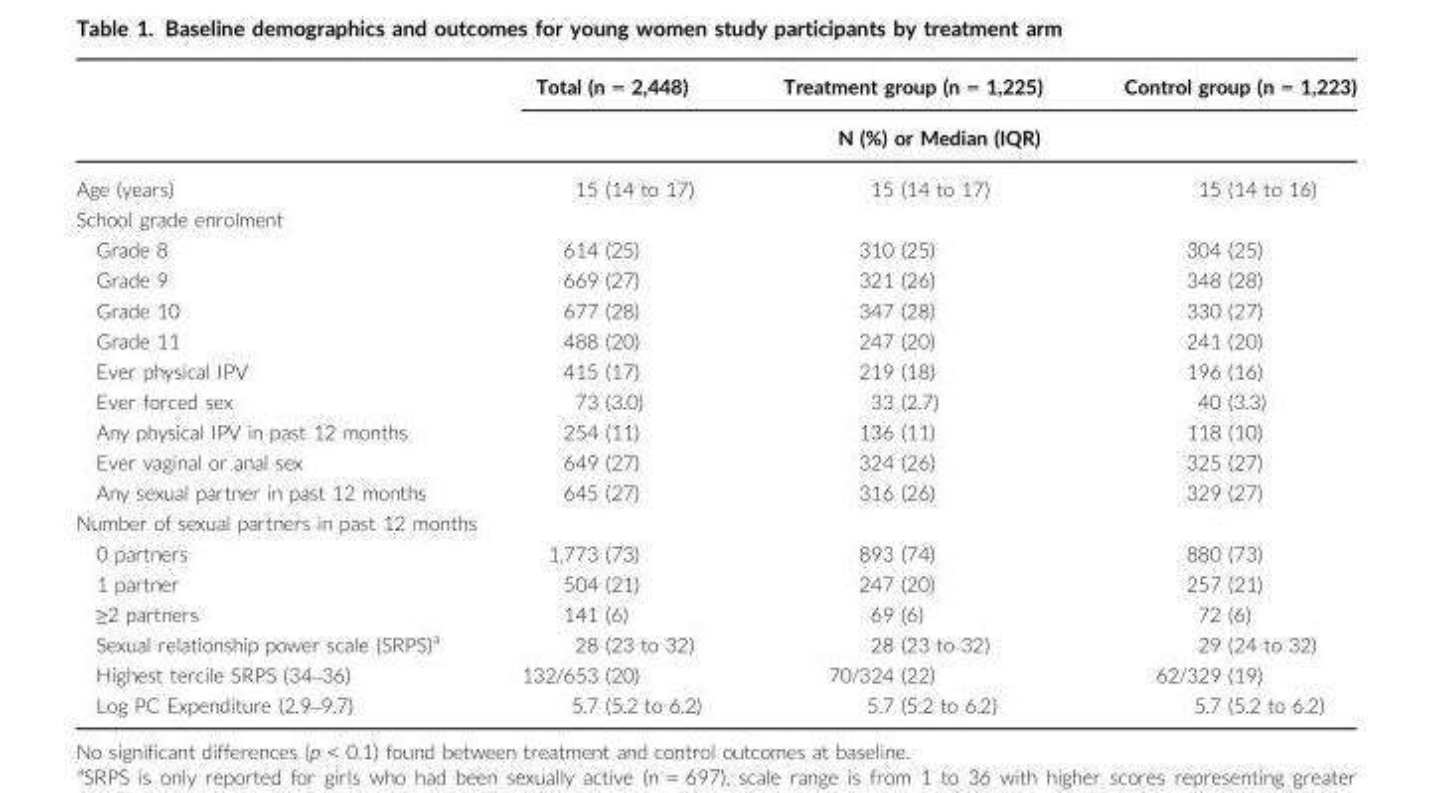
<table><thead><tr><td rowspan="2"></td><td>Total (n = 2,448)</td><td>Treatment group (n = 1,225)</td><td>Control group (n = 1,223)</td></tr><tr><td colspan="3">N (%) or Median (IQR)</td></tr></thead><tbody><tr><td>Age (years)</td><td>15 (14 to 17)</td><td>15 (14 to 17)</td><td>15 (14 to 16)</td></tr><tr><td colspan="4">School grade enrolment</td></tr><tr><td>Grade 8</td><td>614 (25)</td><td>310 (25)</td><td>304 (25)</td></tr><tr><td>Grade 9</td><td>669 (27)</td><td>321 (26)</td><td>348 (28)</td></tr><tr><td>Grade 10</td><td>677 (28)</td><td>347 (28)</td><td>330 (27)</td></tr><tr><td>Grade 11</td><td>488 (20)</td><td>247 (20)</td><td>241 (20)</td></tr><tr><td>Ever physical IPV</td><td>415 (17)</td><td>219 (18)</td><td>196 (16)</td></tr><tr><td>Ever forced sex</td><td>73 (3.0)</td><td>33 (2.7)</td><td>40 (3.3)</td></tr><tr><td>Any physical IPV in past 12 months</td><td>254 (11)</td><td>136 (11)</td><td>118 (10)</td></tr><tr><td>Ever vaginal or anal sex</td><td>649 (27)</td><td>324 (26)</td><td>325 (27)</td></tr><tr><td>Any sexual partner in past 12 months</td><td>645 (27)</td><td>316 (26)</td><td>329 (27)</td></tr><tr><td colspan="4">Number of sexual partners in past 12 months</td></tr><tr><td>0 partners</td><td>1,773 (73)</td><td>893 (74)</td><td>880 (73)</td></tr><tr><td>1 partner</td><td>504 (21)</td><td>247 (20)</td><td>257 (21)</td></tr><tr><td>≥2 partners</td><td>141 (6)</td><td>69 (6)</td><td>72 (6)</td></tr><tr><td>Sexual relationship power scale (SRPS)<sup>a</sup></td><td>28 (23 to 32)</td><td>28 (23 to 32)</td><td>29 (24 to 32)</td></tr><tr><td>Highest tercile SRPS (34–36)</td><td>132/653 (20)</td><td>70/324 (22)</td><td>62/329 (19)</td></tr><tr><td>Log PC Expenditure (2.9–9.7)</td><td>5.7 (5.2 to 6.2)</td><td>5.7 (5.2 to 6.2)</td><td>5.7 (5.2 to 6.2)</td></tr></tbody></table>